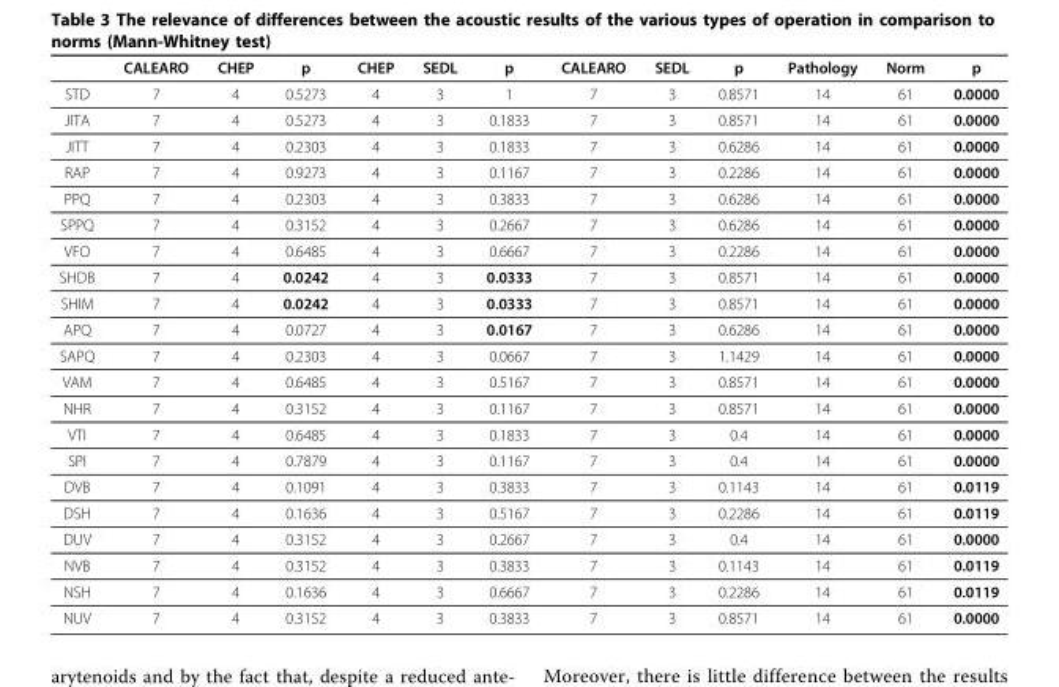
<table><thead><tr><td></td><td>CALEARO</td><td>CHEP</td><td>p</td><td>CHEP</td><td>SEDL</td><td>p</td><td>CALEARO</td><td>SEDL</td><td>p</td><td>Pathology</td><td>Norm</td><td>p</td></tr></thead><tbody><tr><td>STD</td><td>7</td><td>4</td><td>0.5273</td><td>4</td><td>3</td><td>1</td><td>7</td><td>3</td><td>0.8571</td><td>14</td><td>61</td><td>0.0000</td></tr><tr><td>JITA</td><td>7</td><td>4</td><td>0.5273</td><td>4</td><td>3</td><td>0.1833</td><td>7</td><td>3</td><td>0.8571</td><td>14</td><td>61</td><td>0.0000</td></tr><tr><td>JITT</td><td>7</td><td>4</td><td>0.2303</td><td>4</td><td>3</td><td>0.1833</td><td>7</td><td>3</td><td>0.6286</td><td>14</td><td>61</td><td>0.0000</td></tr><tr><td>RAP</td><td>7</td><td>4</td><td>0.9273</td><td>4</td><td>3</td><td>0.1167</td><td>7</td><td>3</td><td>0.2286</td><td>14</td><td>61</td><td>0.0000</td></tr><tr><td>PPQ</td><td>7</td><td>4</td><td>0.2303</td><td>4</td><td>3</td><td>0.3833</td><td>7</td><td>3</td><td>0.6286</td><td>14</td><td>61</td><td>0.0000</td></tr><tr><td>SPPQ</td><td>7</td><td>4</td><td>0.3152</td><td>4</td><td>3</td><td>0.2667</td><td>7</td><td>3</td><td>0.6286</td><td>14</td><td>61</td><td>0.0000</td></tr><tr><td>VFO</td><td>7</td><td>4</td><td>0.6485</td><td>4</td><td>3</td><td>0.6667</td><td>7</td><td>3</td><td>0.2286</td><td>14</td><td>61</td><td>0.0000</td></tr><tr><td>SHDB</td><td>7</td><td>4</td><td>0.0242</td><td>4</td><td>3</td><td>0.0333</td><td>7</td><td>3</td><td>0.8571</td><td>14</td><td>61</td><td>0.0000</td></tr><tr><td>SHIM</td><td>7</td><td>4</td><td>0.0242</td><td>4</td><td>3</td><td>0.0333</td><td>7</td><td>3</td><td>0.8571</td><td>14</td><td>61</td><td>0.0000</td></tr><tr><td>APQ</td><td>7</td><td>4</td><td>0.0727</td><td>4</td><td>3</td><td>0.0167</td><td>7</td><td>3</td><td>0.6286</td><td>14</td><td>61</td><td>0.0000</td></tr><tr><td>SAPQ</td><td>7</td><td>4</td><td>0.2303</td><td>4</td><td>3</td><td>0.0667</td><td>7</td><td>3</td><td>1.1429</td><td>14</td><td>61</td><td>0.0000</td></tr><tr><td>VAM</td><td>7</td><td>4</td><td>0.6485</td><td>4</td><td>3</td><td>0.5167</td><td>7</td><td>3</td><td>0.8571</td><td>14</td><td>61</td><td>0.0000</td></tr><tr><td>NHR</td><td>7</td><td>4</td><td>0.3152</td><td>4</td><td>3</td><td>0.1167</td><td>7</td><td>3</td><td>0.8571</td><td>14</td><td>61</td><td>0.0000</td></tr><tr><td>VTI</td><td>7</td><td>4</td><td>0.6485</td><td>4</td><td>3</td><td>0.1833</td><td>7</td><td>3</td><td>0.4</td><td>14</td><td>61</td><td>0.0000</td></tr><tr><td>SPI</td><td>7</td><td>4</td><td>0.7879</td><td>4</td><td>3</td><td>0.1167</td><td>7</td><td>3</td><td>0.4</td><td>14</td><td>61</td><td>0.0000</td></tr><tr><td>DVB</td><td>7</td><td>4</td><td>0.1091</td><td>4</td><td>3</td><td>0.3833</td><td>7</td><td>3</td><td>0.1143</td><td>14</td><td>61</td><td>0.0119</td></tr><tr><td>DSH</td><td>7</td><td>4</td><td>0.1636</td><td>4</td><td>3</td><td>0.5167</td><td>7</td><td>3</td><td>0.2286</td><td>14</td><td>61</td><td>0.0119</td></tr><tr><td>DUV</td><td>7</td><td>4</td><td>0.3152</td><td>4</td><td>3</td><td>0.2667</td><td>7</td><td>3</td><td>0.4</td><td>14</td><td>61</td><td>0.0000</td></tr><tr><td>NVB</td><td>7</td><td>4</td><td>0.3152</td><td>4</td><td>3</td><td>0.3833</td><td>7</td><td>3</td><td>0.1143</td><td>14</td><td>61</td><td>0.0119</td></tr><tr><td>NSH</td><td>7</td><td>4</td><td>0.1636</td><td>4</td><td>3</td><td>0.6667</td><td>7</td><td>3</td><td>0.2286</td><td>14</td><td>61</td><td>0.0119</td></tr><tr><td>NUV</td><td>7</td><td>4</td><td>0.3152</td><td>4</td><td>3</td><td>0.3833</td><td>7</td><td>3</td><td>0.8571</td><td>14</td><td>61</td><td>0.0000</td></tr></tbody></table>